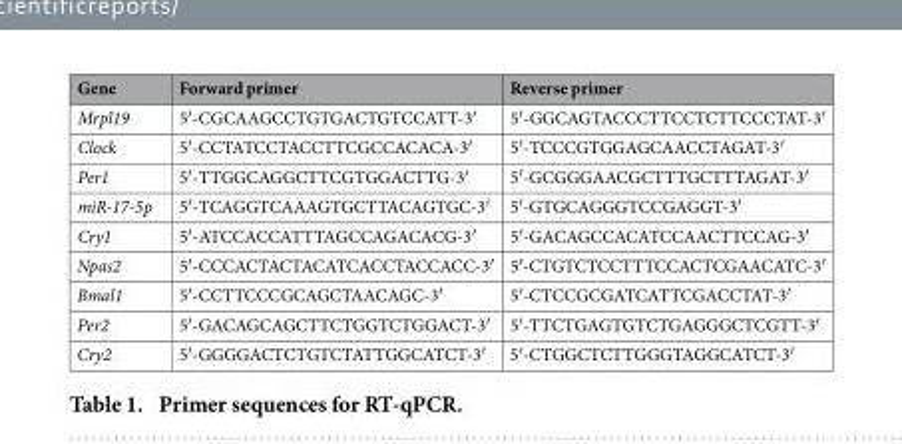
<table><thead><tr><td>Gene</td><td>Forward primer</td><td>Reverse primer</td></tr></thead><tbody><tr><td>Mrpl19</td><td>5′ -CGCAAGCCTGTGACTGTCCATT-3′</td><td>5′ -GGCAGTACCCTTCCTCTTCCCTAT-3′</td></tr><tr><td>Clock</td><td>5′ -CCTATCCTACCTTCGCCACACA-3′</td><td>5′ -TCCCGTGGAGCAACCTAGAT-3′</td></tr><tr><td>Per1</td><td>5′ -TTGGCAGGCTTCGTGGACTTG-3′</td><td>5′ -GCGGGAACGCTTTGCTTTAGAT-3′</td></tr><tr><td>miR-17-5p</td><td>5′ -TCAGGTCAAAGTGCTTACAGTGC-3′</td><td>5′ -GTGCAGGGTCCGAGGT-3′</td></tr><tr><td>Cry1</td><td>5′ -ATCCACCATTTAGCCAGACACG-3′</td><td>5′ -GACAGCCACATCCAACTTCCAG-3′</td></tr><tr><td>Npas2</td><td>5′ -CCCACTACTACATCACCTACCACC-3′</td><td>5′ -CTGTCTCCTTTCCACTCGAACATC-3′</td></tr><tr><td>Bmal1</td><td>5′ -CCTTCCCGCAGCTAACAGC-3′</td><td>5′ -CTCCGCGATCATTCGACCTAT-3′</td></tr><tr><td>Per2</td><td>5′ -GACAGCAGCTTCTGGTCTGGACT-3′</td><td>5′ -TTCTGAGTGTCTGAGGGCTCGTT-3′</td></tr><tr><td>Cry2</td><td>5′ -GGGGACTCTGTCTATTGGCATCT-3′</td><td>5′ -CTGGCTCTTGGGTAGGCATCT-3′</td></tr></tbody></table>